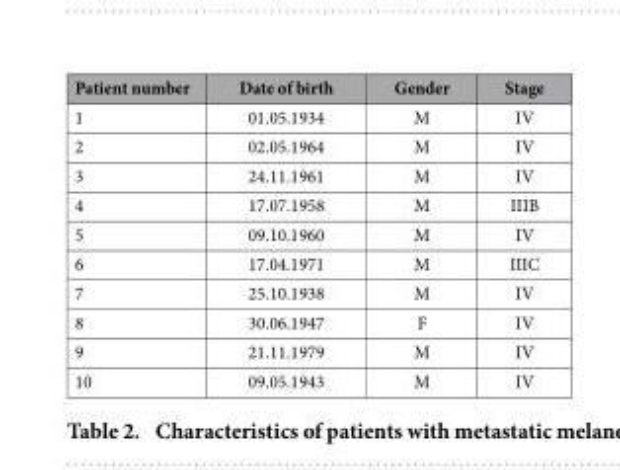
<table><thead><tr><td>Patient number</td><td>Date of birth</td><td>Gender</td><td>Stage</td></tr></thead><tbody><tr><td>1</td><td>01.05.1934</td><td>M</td><td>IV</td></tr><tr><td>2</td><td>02.05.1964</td><td>M</td><td>IV</td></tr><tr><td>3</td><td>24.11.1961</td><td>M</td><td>IV</td></tr><tr><td>4</td><td>17.07.1958</td><td>M</td><td>IIIB</td></tr><tr><td>5</td><td>09.10.1960</td><td>M</td><td>IV</td></tr><tr><td>6</td><td>17.04.1971</td><td>M</td><td>IIIC</td></tr><tr><td>7</td><td>25.10.1938</td><td>M</td><td>IV</td></tr><tr><td>8</td><td>30.06.1947</td><td>F</td><td>IV</td></tr><tr><td>9</td><td>21.11.1979</td><td>M</td><td>IV</td></tr><tr><td>10</td><td>09.05.1943</td><td>M</td><td>IV</td></tr></tbody></table>